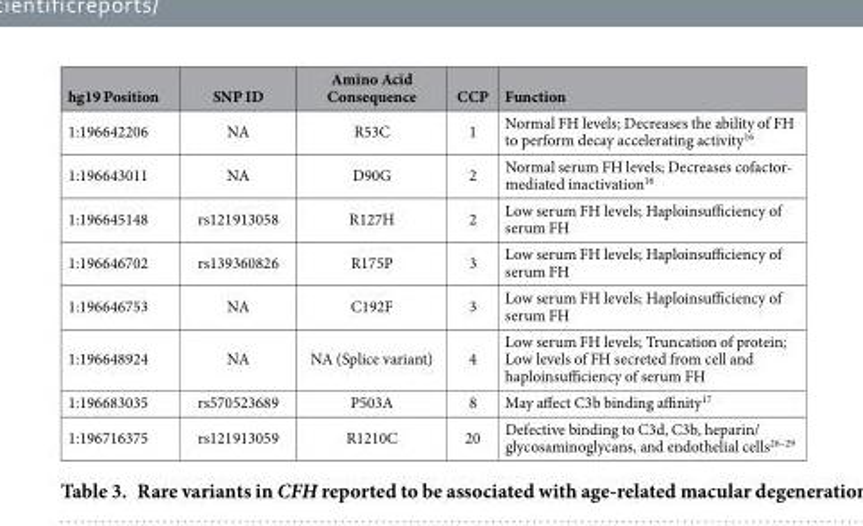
<table><thead><tr><td>hg19 Position</td><td>SNP ID</td><td>Amino Acid Consequence</td><td>CCP</td><td>Function</td></tr></thead><tbody><tr><td>1:196642206</td><td>NA</td><td>R53C</td><td>1</td><td>Normal FH levels; Decreases the ability of FH to perform decay accelerating activity<sup>16</sup></td></tr><tr><td>1:196643011</td><td>NA</td><td>D90G</td><td>2</td><td>Normal serum FH levels; Decreases cofactor- mediated inactivation<sup>16</sup></td></tr><tr><td>1:196645148</td><td>rs121913058</td><td>R127H</td><td>2</td><td>Low serum FH levels; Haploinsufficiency of serum FH</td></tr><tr><td>1:196646702</td><td>rs139360826</td><td>R175P</td><td>3</td><td>Low serum FH levels; Haploinsufficiency of serum FH</td></tr><tr><td>1:196646753</td><td>NA</td><td>C192F</td><td>3</td><td>Low serum FH levels; Haploinsufficiency of serum FH</td></tr><tr><td>1:196648924</td><td>NA</td><td>NA (Splice variant)</td><td>4</td><td>Low serum FH levels; Truncation of protein; Low levels of FH secreted from cell and haploinsufficiency of serum FH</td></tr><tr><td>1:196683035</td><td>rs570523689</td><td>P503A</td><td>8</td><td>May affect C3b binding affinity<sup>17</sup></td></tr><tr><td>1:196716375</td><td>rs121913059</td><td>R1210C</td><td>20</td><td>Defective binding to C3d, C3b, heparin/ glycosaminoglycans, and endothelial cells26–29</td></tr></tbody></table>